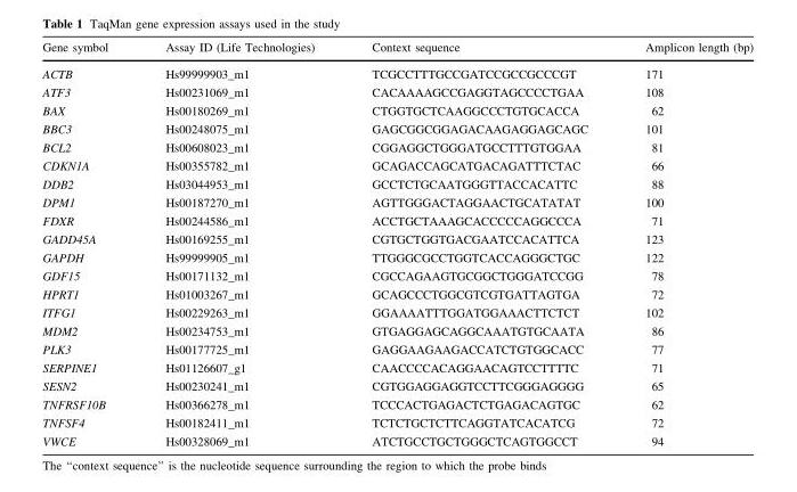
<table><thead><tr><td>Gene symbol</td><td>Assay ID (Life Technologies)</td><td>Context sequence</td><td>Amplicon length (bp)</td></tr></thead><tbody><tr><td>ACTB</td><td>Hs99999903_m1</td><td>TCGCCTTTGCCGATCCGCCGCCCGT</td><td>171</td></tr><tr><td>ATF3</td><td>Hs00231069_m1</td><td>CACAAAAGCCGAGGTAGCCCCTGAA</td><td>108</td></tr><tr><td>BAX</td><td>Hs00180269_m1</td><td>CTGGTGCTCAAGGCCCTGTGCACCA</td><td>62</td></tr><tr><td>BBC3</td><td>Hs00248075_m1</td><td>GAGCGGCGGAGACAAGAGGAGCAGC</td><td>101</td></tr><tr><td>BCL2</td><td>Hs00608023_m1</td><td>CGGAGGCTGGGATGCCTTTGTGGAA</td><td>81</td></tr><tr><td>CDKN1A</td><td>Hs00355782_m1</td><td>GCAGACCAGCATGACAGATTTCTAC</td><td>66</td></tr><tr><td>DDB2</td><td>Hs03044953_m1</td><td>GCCTCTGCAATGGGTTACCACATTC</td><td>88</td></tr><tr><td>DPM1</td><td>Hs00187270_m1</td><td>AGTTGGGACTAGGAACTGCATATAT</td><td>100</td></tr><tr><td>FDXR</td><td>Hs00244586_m1</td><td>ACCTGCTAAAGCACCCCCAGGCCCA</td><td>71</td></tr><tr><td>GADD45A</td><td>Hs00169255_m1</td><td>CGTGCTGGTGACGAATCCACATTCA</td><td>123</td></tr><tr><td>GAPDH</td><td>Hs99999905_m1</td><td>TTGGGCGCCTGGTCACCAGGGCTGC</td><td>122</td></tr><tr><td>GDF15</td><td>Hs00171132_m1</td><td>CGCCAGAAGTGCGGCTGGGATCCGG</td><td>78</td></tr><tr><td>HPRT1</td><td>Hs01003267_m1</td><td>GCAGCCCTGGCGTCGTGATTAGTGA</td><td>72</td></tr><tr><td>ITFG1</td><td>Hs00229263_m1</td><td>GGAAAATTTGGATGGAAACTTCTCT</td><td>102</td></tr><tr><td>MDM2</td><td>Hs00234753_m1</td><td>GTGAGGAGCAGGCAAATGTGCAATA</td><td>86</td></tr><tr><td>PLK3</td><td>Hs00177725_m1</td><td>GAGGAAGAAGACCATCTGTGGCACC</td><td>77</td></tr><tr><td>SERPINE1</td><td>Hs01126607_g1</td><td>CAACCCCACAGGAACAGTCCTTTTC</td><td>71</td></tr><tr><td>SESN2</td><td>Hs00230241_m1</td><td>CGTGGAGGAGGTCCTTCGGGAGGGG</td><td>65</td></tr><tr><td>TNFRSF10B</td><td>Hs00366278_m1</td><td>TCCCACTGAGACTCTGAGACAGTGC</td><td>62</td></tr><tr><td>TNFSF4</td><td>Hs00182411_m1</td><td>TCTCTGCTCTTCAGGTATCACATCG</td><td>72</td></tr><tr><td>VWCE</td><td>Hs00328069_m1</td><td>ATCTGCCTGCTGGGCTCAGTGGCCT</td><td>94</td></tr></tbody></table>